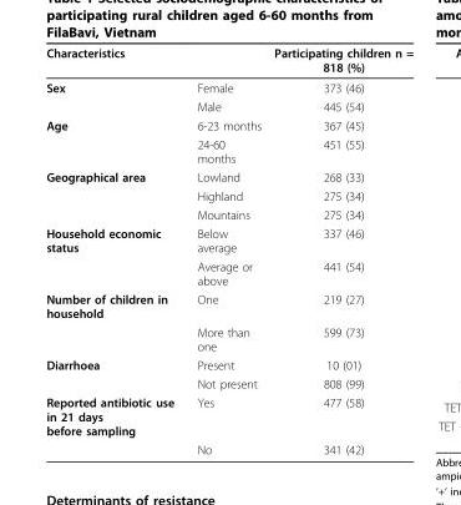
<table><thead><tr><td>Characteristics</td><td></td><td>Participating children n = 818 (%)</td></tr></thead><tbody><tr><td rowspan="2">Sex</td><td>Female</td><td>373 (46)</td></tr><tr><td>Male</td><td>445 (54)</td></tr><tr><td rowspan="2">Age</td><td>6-23 months</td><td>367 (45)</td></tr><tr><td>24-60 months</td><td>451 (55)</td></tr><tr><td rowspan="3">Geographical area</td><td>Lowland</td><td>268 (33)</td></tr><tr><td>Highland</td><td>275 (34)</td></tr><tr><td>Mountains</td><td>275 (34)</td></tr><tr><td rowspan="2">Household economic status</td><td>Below average</td><td>337 (46)</td></tr><tr><td>Average or above</td><td>441 (54)</td></tr><tr><td rowspan="2">Number of children in household</td><td>One</td><td>219 (27)</td></tr><tr><td>More than one</td><td>599 (73)</td></tr><tr><td rowspan="2">Diarrhoea</td><td>Present</td><td>10 (01)</td></tr><tr><td>Not present</td><td>808 (99)</td></tr><tr><td rowspan="2">Reported antibiotic use in 21 days before sampling</td><td>Yes</td><td>477 (58)</td></tr><tr><td>No</td><td>341 (42)</td></tr></tbody></table>